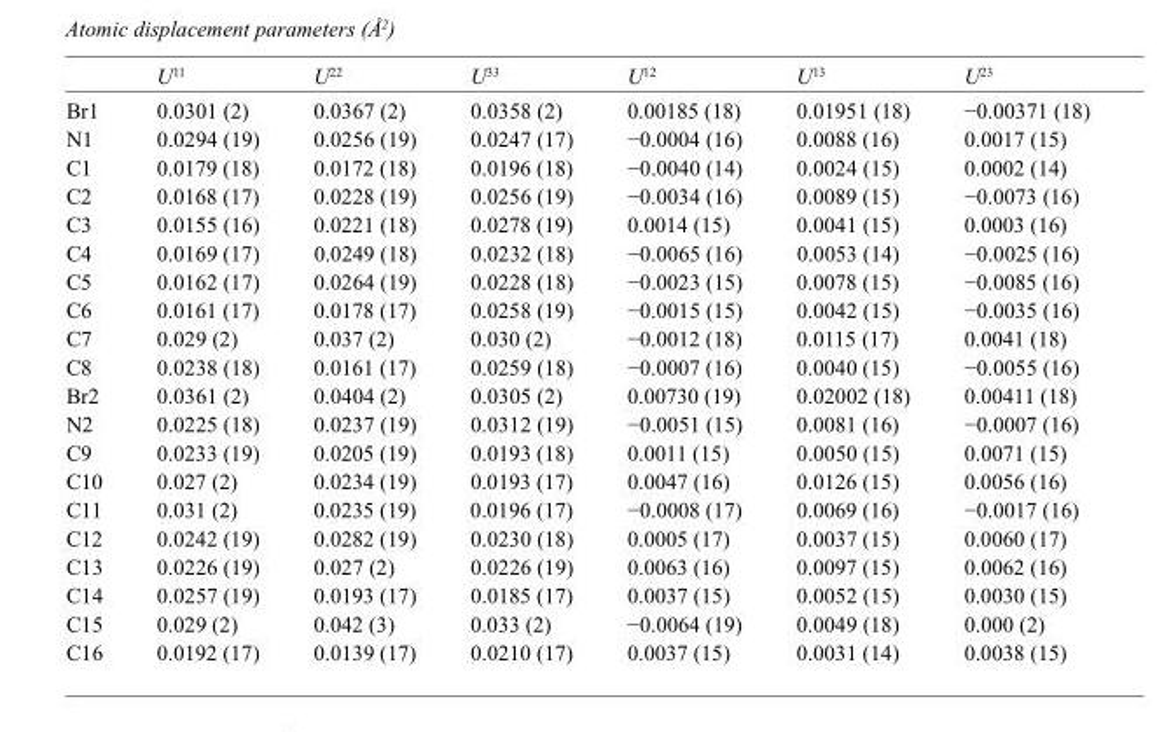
<table><thead><tr><td></td><td>U<sup>11</sup></td><td>U<sup>22</sup></td><td>U<sup>33</sup></td><td>U<sup>12</sup></td><td>U<sup>13</sup></td><td>U<sup>23</sup></td></tr></thead><tbody><tr><td>Br1</td><td>0.0301 (2)</td><td>0.0367 (2)</td><td>0.0358 (2)</td><td>0.00185 (18)</td><td>0.01951 (18)</td><td>−0.00371 (18)</td></tr><tr><td>N1</td><td>0.0294 (19)</td><td>0.0256 (19)</td><td>0.0247 (17)</td><td>−0.0004 (16)</td><td>0.0088 (16)</td><td>0.0017 (15)</td></tr><tr><td>C1</td><td>0.0179 (18)</td><td>0.0172 (18)</td><td>0.0196 (18)</td><td>−0.0040 (14)</td><td>0.0024 (15)</td><td>0.0002 (14)</td></tr><tr><td>C2</td><td>0.0168 (17)</td><td>0.0228 (19)</td><td>0.0256 (19)</td><td>−0.0034 (16)</td><td>0.0089 (15)</td><td>−0.0073 (16)</td></tr><tr><td>C3</td><td>0.0155 (16)</td><td>0.0221 (18)</td><td>0.0278 (19)</td><td>0.0014 (15)</td><td>0.0041 (15)</td><td>0.0003 (16)</td></tr><tr><td>C4</td><td>0.0169 (17)</td><td>0.0249 (18)</td><td>0.0232 (18)</td><td>−0.0065 (16)</td><td>0.0053 (14)</td><td>−0.0025 (16)</td></tr><tr><td>C5</td><td>0.0162 (17)</td><td>0.0264 (19)</td><td>0.0228 (18)</td><td>−0.0023 (15)</td><td>0.0078 (15)</td><td>−0.0085 (16)</td></tr><tr><td>C6</td><td>0.0161 (17)</td><td>0.0178 (17)</td><td>0.0258 (19)</td><td>−0.0015 (15)</td><td>0.0042 (15)</td><td>−0.0035 (16)</td></tr><tr><td>C7</td><td>0.029 (2)</td><td>0.037 (2)</td><td>0.030 (2)</td><td>−0.0012 (18)</td><td>0.0115 (17)</td><td>0.0041 (18)</td></tr><tr><td>C8</td><td>0.0238 (18)</td><td>0.0161 (17)</td><td>0.0259 (18)</td><td>−0.0007 (16)</td><td>0.0040 (15)</td><td>−0.0055 (16)</td></tr><tr><td>Br2</td><td>0.0361 (2)</td><td>0.0404 (2)</td><td>0.0305 (2)</td><td>0.00730 (19)</td><td>0.02002 (18)</td><td>0.00411 (18)</td></tr><tr><td>N2</td><td>0.0225 (18)</td><td>0.0237 (19)</td><td>0.0312 (19)</td><td>−0.0051 (15)</td><td>0.0081 (16)</td><td>−0.0007 (16)</td></tr><tr><td>C9</td><td>0.0233 (19)</td><td>0.0205 (19)</td><td>0.0193 (18)</td><td>0.0011 (15)</td><td>0.0050 (15)</td><td>0.0071 (15)</td></tr><tr><td>C10</td><td>0.027 (2)</td><td>0.0234 (19)</td><td>0.0193 (17)</td><td>0.0047 (16)</td><td>0.0126 (15)</td><td>0.0056 (16)</td></tr><tr><td>C11</td><td>0.031 (2)</td><td>0.0235 (19)</td><td>0.0196 (17)</td><td>−0.0008 (17)</td><td>0.0069 (16)</td><td>−0.0017 (16)</td></tr><tr><td>C12</td><td>0.0242 (19)</td><td>0.0282 (19)</td><td>0.0230 (18)</td><td>0.0005 (17)</td><td>0.0037 (15)</td><td>0.0060 (17)</td></tr><tr><td>C13</td><td>0.0226 (19)</td><td>0.027 (2)</td><td>0.0226 (19)</td><td>0.0063 (16)</td><td>0.0097 (15)</td><td>0.0062 (16)</td></tr><tr><td>C14</td><td>0.0257 (19)</td><td>0.0193 (17)</td><td>0.0185 (17)</td><td>0.0037 (15)</td><td>0.0052 (15)</td><td>0.0030 (15)</td></tr><tr><td>C15</td><td>0.029 (2)</td><td>0.042 (3)</td><td>0.033 (2)</td><td>−0.0064 (19)</td><td>0.0049 (18)</td><td>0.000 (2)</td></tr><tr><td>C16</td><td>0.0192 (17)</td><td>0.0139 (17)</td><td>0.0210 (17)</td><td>0.0037 (15)</td><td>0.0031 (14)</td><td>0.0038 (15)</td></tr></tbody></table>